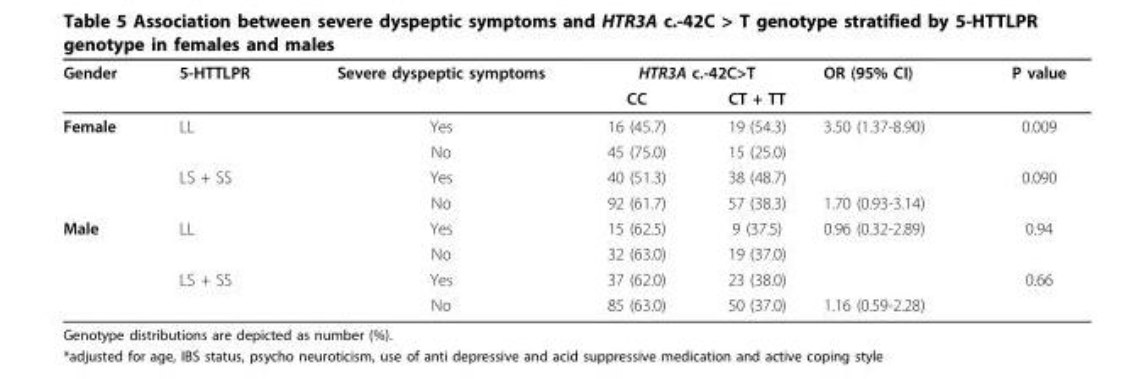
<table><thead><tr><td rowspan="2">Gender</td><td rowspan="2">5-HTTLPR</td><td rowspan="2">Severe dyspeptic symptoms</td><td colspan="2">HTR3A c.-42C&gt;T</td><td rowspan="2">OR (95% CI)</td><td rowspan="2">P value</td></tr><tr><td>CC</td><td>CT + TT</td></tr></thead><tbody><tr><td rowspan="4">Female</td><td>LL</td><td>Yes</td><td>16 (45.7)</td><td>19 (54.3)</td><td>3.50 (1.37-8.90)</td><td>0.009</td></tr><tr><td></td><td>No</td><td>45 (75.0)</td><td>15 (25.0)</td><td></td><td></td></tr><tr><td>LS + SS</td><td>Yes</td><td>40 (51.3)</td><td>38 (48.7)</td><td></td><td>0.090</td></tr><tr><td></td><td>No</td><td>92 (61.7)</td><td>57 (38.3)</td><td>1.70 (0.93-3.14)</td><td></td></tr><tr><td rowspan="4">Male</td><td>LL</td><td>Yes</td><td>15 (62.5)</td><td>9 (37.5)</td><td>0.96 (0.32-2.89)</td><td>0.94</td></tr><tr><td></td><td>No</td><td>32 (63.0)</td><td>19 (37.0)</td><td></td><td></td></tr><tr><td>LS + SS</td><td>Yes</td><td>37 (62.0)</td><td>23 (38.0)</td><td></td><td>0.66</td></tr><tr><td></td><td>No</td><td>85 (63.0)</td><td>50 (37.0)</td><td>1.16 (0.59-2.28)</td><td></td></tr></tbody></table>